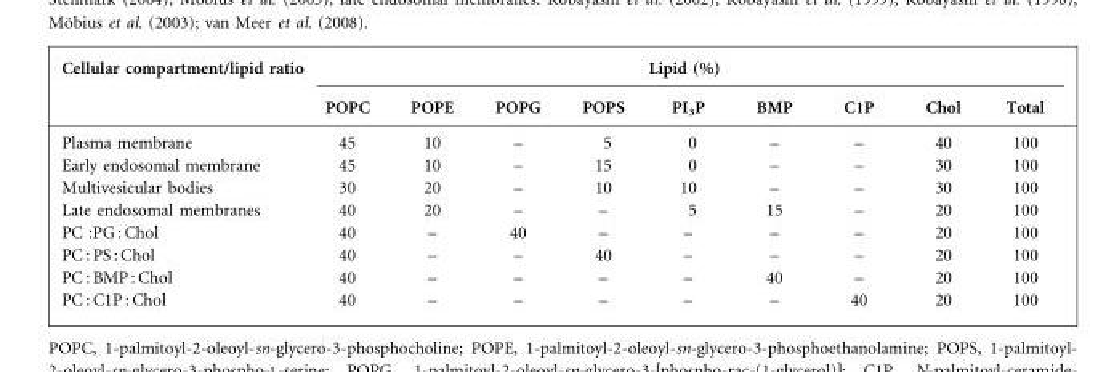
<table><thead><tr><td rowspan="2">Cellular compartment/lipid ratio</td><td colspan="9">Lipid (%)</td></tr><tr><td>POPC</td><td>POPE</td><td>POPG</td><td>POPS</td><td>PI<sub>3</sub>P</td><td>BMP</td><td>C1P</td><td>Chol</td><td>Total</td></tr></thead><tbody><tr><td>Plasma membrane</td><td>45</td><td>10</td><td>–</td><td>5</td><td>0</td><td>–</td><td>–</td><td>40</td><td>100</td></tr><tr><td>Early endosomal membrane</td><td>45</td><td>10</td><td>–</td><td>15</td><td>0</td><td>–</td><td>–</td><td>30</td><td>100</td></tr><tr><td>Multivesicular bodies</td><td>30</td><td>20</td><td>–</td><td>10</td><td>10</td><td>–</td><td>–</td><td>30</td><td>100</td></tr><tr><td>Late endosomal membranes</td><td>40</td><td>20</td><td>–</td><td>–</td><td>5</td><td>15</td><td>–</td><td>20</td><td>100</td></tr><tr><td>PC :PG : Chol</td><td>40</td><td>–</td><td>40</td><td>–</td><td>–</td><td>–</td><td>–</td><td>20</td><td>100</td></tr><tr><td>PC : PS : Chol</td><td>40</td><td>–</td><td>–</td><td>40</td><td>–</td><td>–</td><td>–</td><td>20</td><td>100</td></tr><tr><td>PC : BMP : Chol</td><td>40</td><td>–</td><td>–</td><td>–</td><td>–</td><td>40</td><td>–</td><td>20</td><td>100</td></tr><tr><td>PC : C1P : Chol</td><td>40</td><td>–</td><td>–</td><td>–</td><td>–</td><td>–</td><td>40</td><td>20</td><td>100</td></tr></tbody></table>